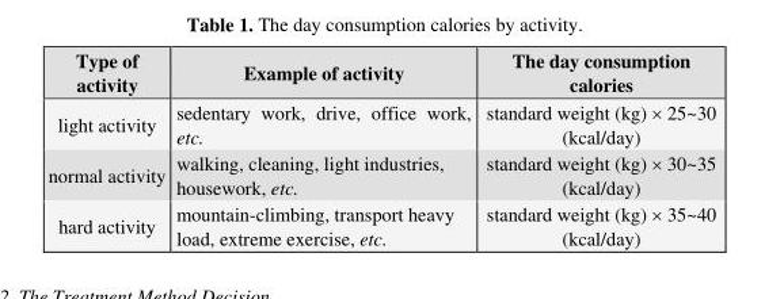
<table><thead><tr><td>Type of activity</td><td>Example of activity</td><td>The day consumption calories</td></tr></thead><tbody><tr><td>light activity</td><td>sedentary work, drive, office work, etc.</td><td>standard weight (kg) × 25~30 (kcal/day)</td></tr><tr><td>normal activity</td><td>walking, cleaning, light industries, housework, etc.</td><td>standard weight (kg) × 30~35 (kcal/day)</td></tr><tr><td>hard activity</td><td>mountain-climbing, transport heavy load, extreme exercise, etc.</td><td>standard weight (kg) × 35~40 (kcal/day)</td></tr></tbody></table>